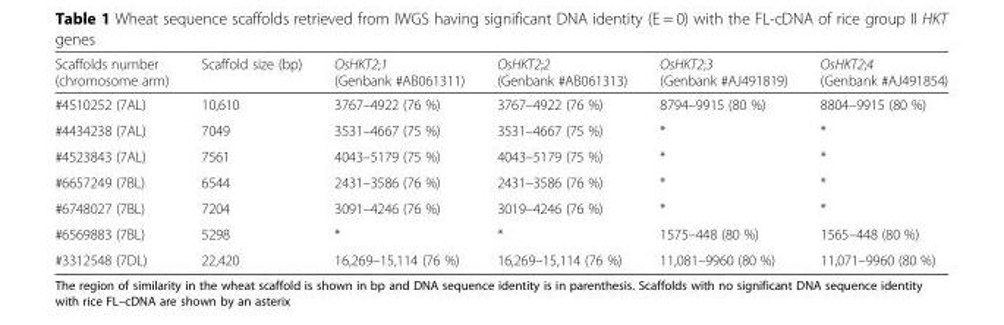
<table><thead><tr><td>Scaffolds number (chromosome arm)</td><td>Scaffold size (bp)</td><td>OsHKT2;1 (Genbank #AB061311)</td><td>OsHKT2;2 (Genbank #AB061313)</td><td>OsHKT2;3 (Genbank #AJ491819)</td><td>OsHKT2;4 (Genbank #AJ491854)</td></tr></thead><tbody><tr><td>#4510252 (7AL)</td><td>10,610</td><td>3767–4922 (76 %)</td><td>3767–4922 (76 %)</td><td>8794–9915 (80 %)</td><td>8804–9915 (80 %)</td></tr><tr><td>#4434238 (7AL)</td><td>7049</td><td>3531–4667 (75 %)</td><td>3531–4667 (75 %)</td><td>*</td><td>*</td></tr><tr><td>#4523843 (7AL)</td><td>7561</td><td>4043–5179 (75 %)</td><td>4043–5179 (75 %)</td><td>*</td><td>*</td></tr><tr><td>#6657249 (7BL)</td><td>6544</td><td>2431–3586 (76 %)</td><td>2431–3586 (76 %)</td><td>*</td><td>*</td></tr><tr><td>#6748027 (7BL)</td><td>7204</td><td>3091–4246 (76 %)</td><td>3019–4246 (76 %)</td><td>*</td><td>*</td></tr><tr><td>#6569883 (7BL)</td><td>5298</td><td>*</td><td>*</td><td>1575–448 (80 %)</td><td>1565–448 (80 %)</td></tr><tr><td>#3312548 (7DL)</td><td>22,420</td><td>16,269–15,114 (76 %)</td><td>16,269–15,114 (76 %)</td><td>11,081–9960 (80 %)</td><td>11,071–9960 (80 %)</td></tr></tbody></table>